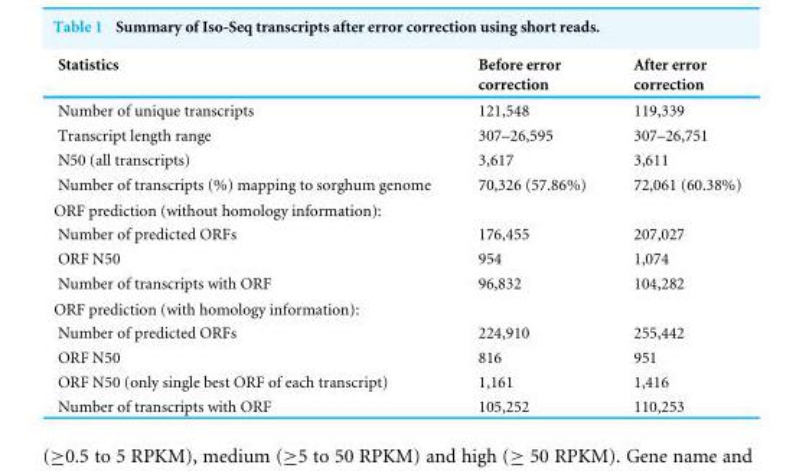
<table><thead><tr><td>Statistics</td><td>Before error correction</td><td>After error correction</td></tr></thead><tbody><tr><td>Number of unique transcripts</td><td>121,548</td><td>119,339</td></tr><tr><td>Transcript length range</td><td>307–26,595</td><td>307–26,751</td></tr><tr><td>N50 (all transcripts)</td><td>3,617</td><td>3,611</td></tr><tr><td>Number of transcripts (%) mapping to sorghum genome</td><td>70,326 (57.86%)</td><td>72,061 (60.38%)</td></tr><tr><td colspan="3">ORF prediction (without homology information):</td></tr><tr><td>Number of predicted ORFs</td><td>176,455</td><td>207,027</td></tr><tr><td>ORF N50</td><td>954</td><td>1,074</td></tr><tr><td>Number of transcripts with ORF</td><td>96,832</td><td>104,282</td></tr><tr><td colspan="3">ORF prediction (with homology information):</td></tr><tr><td>Number of predicted ORFs</td><td>224,910</td><td>255,442</td></tr><tr><td>ORF N50</td><td>816</td><td>951</td></tr><tr><td>ORF N50 (only single best ORF of each transcript)</td><td>1,161</td><td>1,416</td></tr><tr><td>Number of transcripts with ORF</td><td>105,252</td><td>110,253</td></tr></tbody></table>